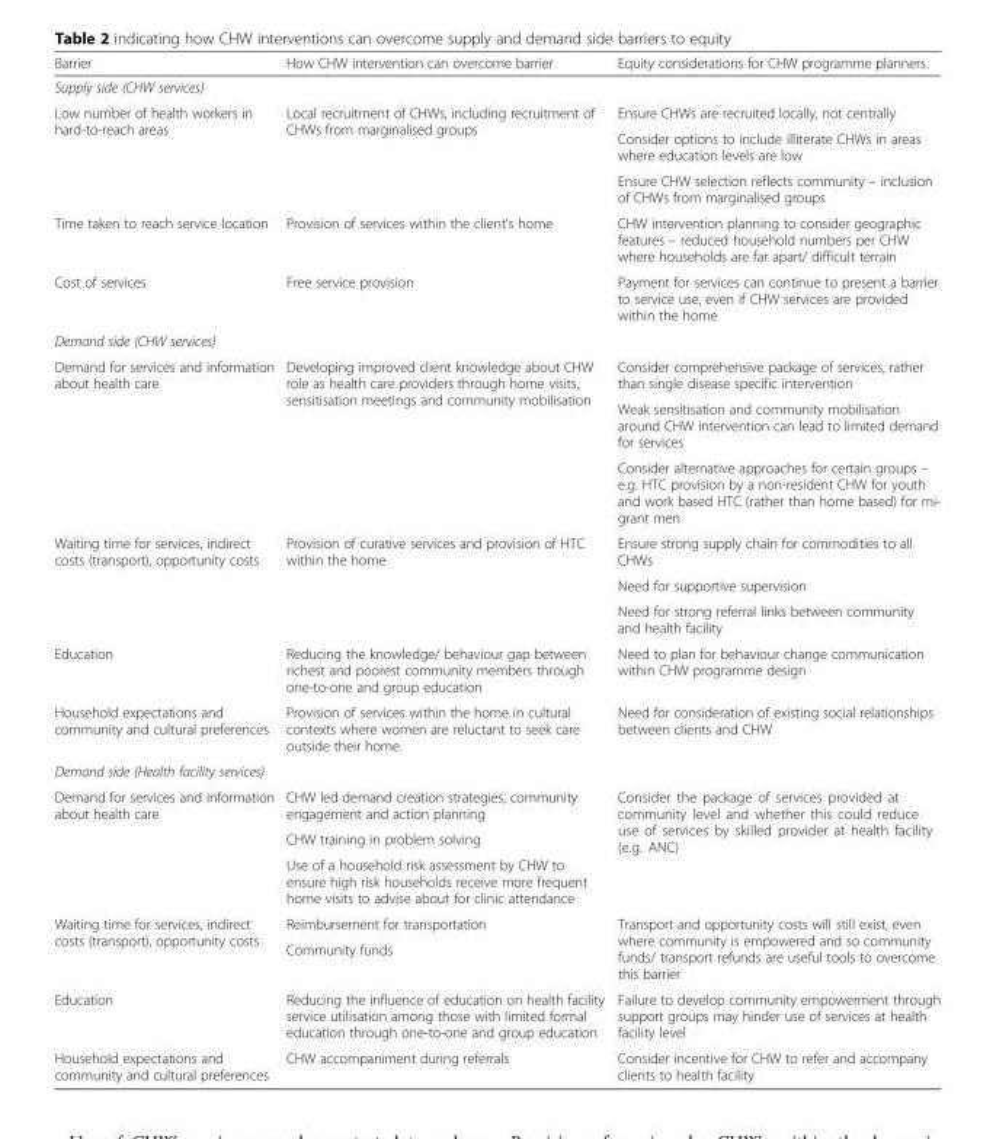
<table><thead><tr><td>Barrier</td><td>How CHW intervention can overcome barrier</td><td>Equity considerations for CHW programme planners</td></tr></thead><tbody><tr><td colspan="3">Supply side (CHW services)</td></tr><tr><td rowspan="3">Low number of health workers in hard-to-reach areas</td><td rowspan="3">Local recruitment of CHWs, including recruitment of CHWs from marginalised groups</td><td>Ensure CHWs are recruited locally, not centrally</td></tr><tr><td>Consider options to include illiterate CHWs in areas where education levels are low</td></tr><tr><td>Ensure CHW selection reflects community – inclusion of CHWs from marginalised groups</td></tr><tr><td>Time taken to reach service location</td><td>Provision of services within the client’s home</td><td>CHW intervention planning to consider geographic features – reduced household numbers per CHW where households are far apart/ difficult terrain</td></tr><tr><td>Cost of services</td><td>Free service provision</td><td>Payment for services can continue to present a barrier to service use, even if CHW services are provided within the home</td></tr><tr><td colspan="3">Demand side (CHW services)</td></tr><tr><td rowspan="3">Demand for services and information about health care</td><td rowspan="3">Developing improved client knowledge about CHW role as health care providers through home visits, sensitisation meetings and community mobilisation</td><td>Consider comprehensive package of services, rather than single disease specific intervention</td></tr><tr><td>Weak sensitisation and community mobilisation around CHW intervention can lead to limited demand for services</td></tr><tr><td>Consider alternative approaches for certain groups – e.g. HTC provision by a non-resident CHW for youth and work based HTC (rather than home based) for mi- grant men</td></tr><tr><td rowspan="3">Waiting time for services, indirect costs (transport), opportunity costs</td><td rowspan="3">Provision of curative services and provision of HTC within the home</td><td>Ensure strong supply chain for commodities to all CHWs</td></tr><tr><td>Need for supportive supervision</td></tr><tr><td>Need for strong referral links between community and health facility</td></tr><tr><td>Education</td><td>Reducing the knowledge/ behaviour gap between richest and poorest community members through one-to-one and group education</td><td>Need to plan for behaviour change communication within CHW programme design</td></tr><tr><td>Household expectations and community and cultural preferences</td><td>Provision of services within the home in cultural contexts where women are reluctant to seek care outside their home.</td><td>Need for consideration of existing social relationships between clients and CHW</td></tr><tr><td colspan="3">Demand side (Health facility services)</td></tr><tr><td rowspan="3">Demand for services and information about health care</td><td>CHW led demand creation strategies, community engagement and action planning</td><td rowspan="3">Consider the package of services provided at community level and whether this could reduce use of services by skilled provider at health facility (e.g. ANC)</td></tr><tr><td>CHW training in problem solving</td></tr><tr><td>Use of a household risk assessment by CHW to ensure high risk households receive more frequent home visits to advise about for clinic attendance</td></tr><tr><td rowspan="2">Waiting time for services, indirect costs (transport), opportunity costs</td><td>Reimbursement for transportation</td><td rowspan="2">Transport and opportunity costs will still exist, even where community is empowered and so community funds/ transport refunds are useful tools to overcome this barrier</td></tr><tr><td>Community funds</td></tr><tr><td>Education</td><td>Reducing the influence of education on health facility service utilisation among those with limited formal education through one-to-one and group education</td><td>Failure to develop community empowerment through support groups may hinder use of services at health facility level</td></tr><tr><td>Household expectations and community and cultural preferences</td><td>CHW accompaniment during referrals</td><td>Consider incentive for CHW to refer and accompany clients to health facility</td></tr></tbody></table>